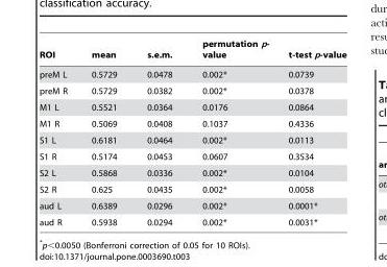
<table><thead><tr><td>ROI</td><td>mean</td><td>s.e.m.</td><td>permutation p- value</td><td>t-test p-value</td></tr></thead><tbody><tr><td>preM L</td><td>0.5729</td><td>0.0478</td><td>0.002*</td><td>0.0739</td></tr><tr><td>preM R</td><td>0.5729</td><td>0.0382</td><td>0.002*</td><td>0.0378</td></tr><tr><td>M1 L</td><td>0.5521</td><td>0.0364</td><td>0.0176</td><td>0.0864</td></tr><tr><td>M1 R</td><td>0.5069</td><td>0.0408</td><td>0.1037</td><td>0.4336</td></tr><tr><td>S1 L</td><td>0.6181</td><td>0.0464</td><td>0.002*</td><td>0.0113</td></tr><tr><td>S1 R</td><td>0.5174</td><td>0.0453</td><td>0.0607</td><td>0.3534</td></tr><tr><td>S2 L</td><td>0.5868</td><td>0.0336</td><td>0.002*</td><td>0.0104</td></tr><tr><td>S2 R</td><td>0.625</td><td>0.0435</td><td>0.002*</td><td>0.0058</td></tr><tr><td>aud L</td><td>0.6389</td><td>0.0296</td><td>0.002*</td><td>0.0001*</td></tr><tr><td>aud R</td><td>0.5938</td><td>0.0294</td><td>0.002*</td><td>0.0031*</td></tr></tbody></table>